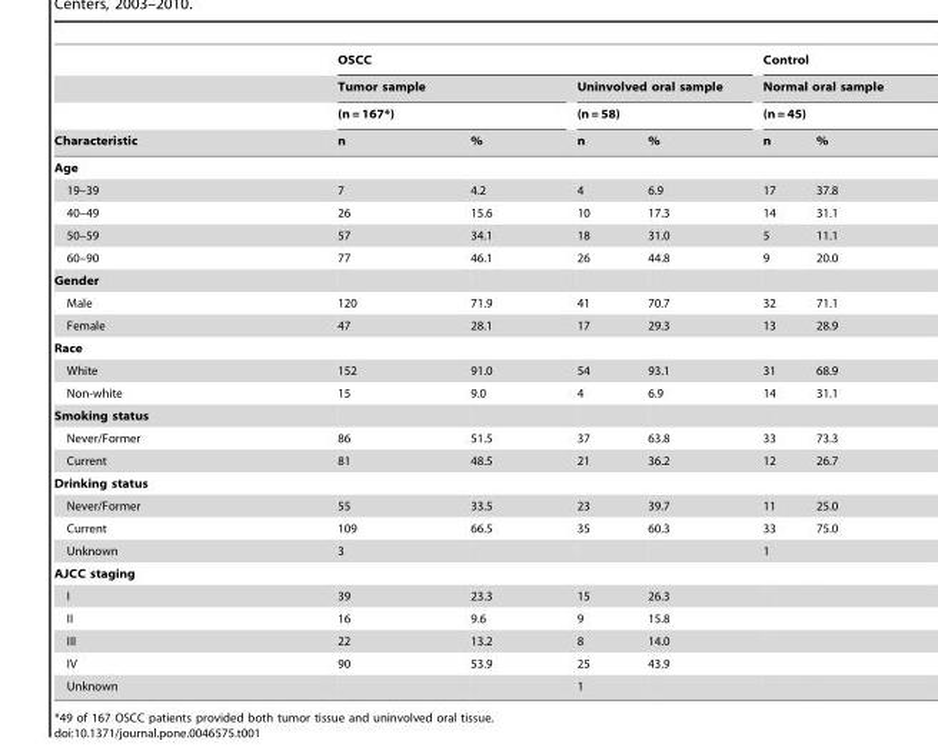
<table><thead><tr><td rowspan="4">Characteristic</td><td colspan="4">OSCC</td><td rowspan="3" colspan="2">Control Normal oral sample (n = 45)</td></tr><tr><td rowspan="2" colspan="2">Tumor sample (n = 167*)</td><td rowspan="2" colspan="2">Uninvolved oral sample (n = 58)</td></tr><tr></tr><tr><td>n</td><td>%</td><td>n</td><td>%</td><td>n</td><td>%</td></tr></thead><tbody><tr><td colspan="7">Age</td></tr><tr><td>19–39</td><td>7</td><td>4.2</td><td>4</td><td>6.9</td><td>17</td><td>37.8</td></tr><tr><td>40–49</td><td>26</td><td>15.6</td><td>10</td><td>17.3</td><td>14</td><td>31.1</td></tr><tr><td>50–59</td><td>57</td><td>34.1</td><td>18</td><td>31.0</td><td>5</td><td>11.1</td></tr><tr><td>60–90</td><td>77</td><td>46.1</td><td>26</td><td>44.8</td><td>9</td><td>20.0</td></tr><tr><td colspan="7">Gender</td></tr><tr><td>Male</td><td>120</td><td>71.9</td><td>41</td><td>70.7</td><td>32</td><td>71.1</td></tr><tr><td>Female</td><td>47</td><td>28.1</td><td>17</td><td>29.3</td><td>13</td><td>28.9</td></tr><tr><td colspan="7">Race</td></tr><tr><td>White</td><td>152</td><td>91.0</td><td>54</td><td>93.1</td><td>31</td><td>68.9</td></tr><tr><td>Non-white</td><td>15</td><td>9.0</td><td>4</td><td>6.9</td><td>14</td><td>31.1</td></tr><tr><td colspan="7">Smoking status</td></tr><tr><td>Never/Former</td><td>86</td><td>51.5</td><td>37</td><td>63.8</td><td>33</td><td>73.3</td></tr><tr><td>Current</td><td>81</td><td>48.5</td><td>21</td><td>36.2</td><td>12</td><td>26.7</td></tr><tr><td colspan="7">Drinking status</td></tr><tr><td>Never/Former</td><td>55</td><td>33.5</td><td>23</td><td>39.7</td><td>11</td><td>25.0</td></tr><tr><td>Current</td><td>109</td><td>66.5</td><td>35</td><td>60.3</td><td>33</td><td>75.0</td></tr><tr><td>Unknown</td><td>3</td><td></td><td></td><td></td><td>1</td><td></td></tr><tr><td colspan="7">AJCC staging</td></tr><tr><td>I</td><td>39</td><td>23.3</td><td>15</td><td>26.3</td><td></td><td></td></tr><tr><td>II</td><td>16</td><td>9.6</td><td>9</td><td>15.8</td><td></td><td></td></tr><tr><td>III</td><td>22</td><td>13.2</td><td>8</td><td>14.0</td><td></td><td></td></tr><tr><td>IV</td><td>90</td><td>53.9</td><td>25</td><td>43.9</td><td></td><td></td></tr><tr><td>Unknown</td><td></td><td></td><td>1</td><td></td><td></td><td></td></tr></tbody></table>